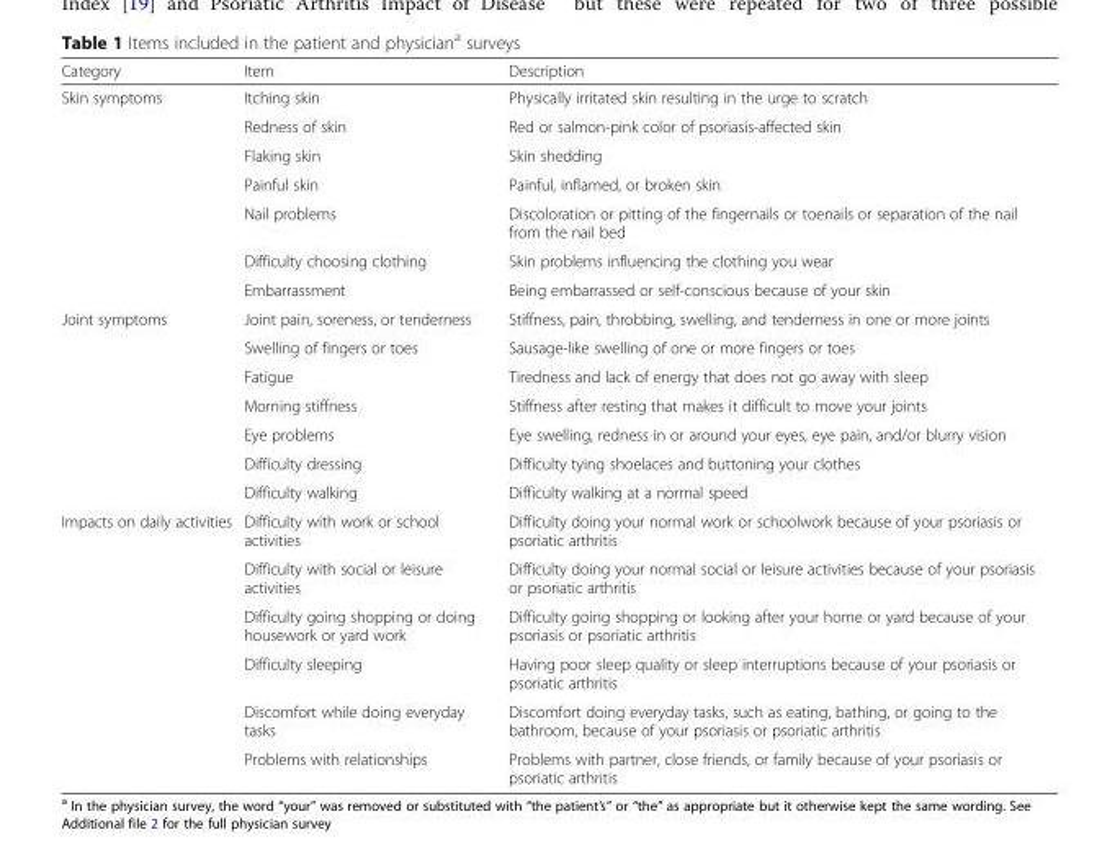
<table><thead><tr><td>Category</td><td>Item</td><td>Description</td></tr></thead><tbody><tr><td rowspan="7">Skin symptoms</td><td>Itching skin</td><td>Physically irritated skin resulting in the urge to scratch</td></tr><tr><td>Redness of skin</td><td>Red or salmon-pink color of psoriasis-affected skin</td></tr><tr><td>Flaking skin</td><td>Skin shedding</td></tr><tr><td>Painful skin</td><td>Painful, inflamed, or broken skin</td></tr><tr><td>Nail problems</td><td>Discoloration or pitting of the fingernails or toenails or separation of the nail from the nail bed</td></tr><tr><td>Difficulty choosing clothing</td><td>Skin problems influencing the clothing you wear</td></tr><tr><td>Embarrassment</td><td>Being embarrassed or self-conscious because of your skin</td></tr><tr><td rowspan="7">Joint symptoms</td><td>Joint pain, soreness, or tenderness</td><td>Stiffness, pain, throbbing, swelling, and tenderness in one or more joints</td></tr><tr><td>Swelling of fingers or toes</td><td>Sausage-like swelling of one or more fingers or toes</td></tr><tr><td>Fatigue</td><td>Tiredness and lack of energy that does not go away with sleep</td></tr><tr><td>Morning stiffness</td><td>Stiffness after resting that makes it difficult to move your joints</td></tr><tr><td>Eye problems</td><td>Eye swelling, redness in or around your eyes, eye pain, and/or blurry vision</td></tr><tr><td>Difficulty dressing</td><td>Difficulty tying shoelaces and buttoning your clothes</td></tr><tr><td>Difficulty walking</td><td>Difficulty walking at a normal speed</td></tr><tr><td rowspan="6">Impacts on daily activities</td><td>Difficulty with work or school activities</td><td>Difficulty doing your normal work or schoolwork because of your psoriasis or psoriatic arthritis</td></tr><tr><td>Difficulty with social or leisure activities</td><td>Difficulty doing your normal social or leisure activities because of your psoriasis or psoriatic arthritis</td></tr><tr><td>Difficulty going shopping or doing housework or yard work</td><td>Difficulty going shopping or looking after your home or yard because of your psoriasis or psoriatic arthritis</td></tr><tr><td>Difficulty sleeping</td><td>Having poor sleep quality or sleep interruptions because of your psoriasis or psoriatic arthritis</td></tr><tr><td>Discomfort while doing everyday tasks</td><td>Discomfort doing everyday tasks, such as eating, bathing, or going to the bathroom, because of your psoriasis or psoriatic arthritis</td></tr><tr><td>Problems with relationships</td><td>Problems with partner, close friends, or family because of your psoriasis or psoriatic arthritis</td></tr></tbody></table>